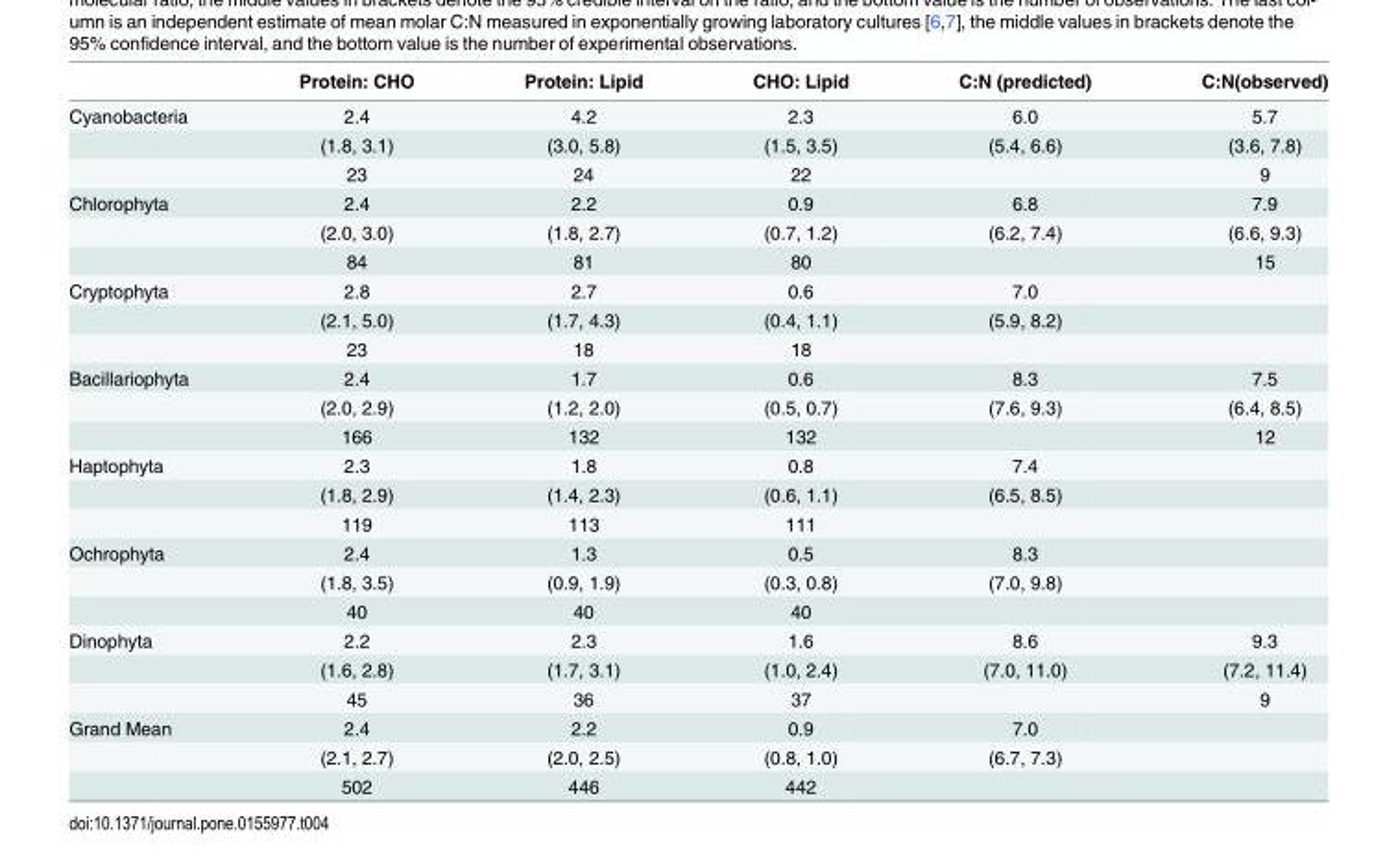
<table><thead><tr><td></td><td>Protein: CHO</td><td>Protein: Lipid</td><td>CHO: Lipid</td><td>C:N (predicted)</td><td>C:N(observed)</td></tr></thead><tbody><tr><td rowspan="3">Cyanobacteria</td><td>2.4</td><td>4.2</td><td>2.3</td><td>6.0</td><td>5.7</td></tr><tr><td>(1.8, 3.1)</td><td>(3.0, 5.8)</td><td>(1.5, 3.5)</td><td>(5.4, 6.6)</td><td>(3.6, 7.8)</td></tr><tr><td>23</td><td>24</td><td>22</td><td></td><td>9</td></tr><tr><td rowspan="3">Chlorophyta</td><td>2.4</td><td>2.2</td><td>0.9</td><td>6.8</td><td>7.9</td></tr><tr><td>(2.0, 3.0)</td><td>(1.8, 2.7)</td><td>(0.7, 1.2)</td><td>(6.2, 7.4)</td><td>(6.6, 9.3)</td></tr><tr><td>84</td><td>81</td><td>80</td><td></td><td>15</td></tr><tr><td rowspan="3">Cryptophyta</td><td>2.8</td><td>2.7</td><td>0.6</td><td>7.0</td><td></td></tr><tr><td>(2.1, 5.0)</td><td>(1.7, 4.3)</td><td>(0.4, 1.1)</td><td>(5.9, 8.2)</td><td></td></tr><tr><td>23</td><td>18</td><td>18</td><td></td><td></td></tr><tr><td rowspan="3">Bacillariophyta</td><td>2.4</td><td>1.7</td><td>0.6</td><td>8.3</td><td>7.5</td></tr><tr><td>(2.0, 2.9)</td><td>(1.2, 2.0)</td><td>(0.5, 0.7)</td><td>(7.6, 9.3)</td><td>(6.4, 8.5)</td></tr><tr><td>166</td><td>132</td><td>132</td><td></td><td>12</td></tr><tr><td rowspan="3">Haptophyta</td><td>2.3</td><td>1.8</td><td>0.8</td><td>7.4</td><td></td></tr><tr><td>(1.8, 2.9)</td><td>(1.4, 2.3)</td><td>(0.6, 1.1)</td><td>(6.5, 8.5)</td><td></td></tr><tr><td>119</td><td>113</td><td>111</td><td></td><td></td></tr><tr><td rowspan="3">Ochrophyta</td><td>2.4</td><td>1.3</td><td>0.5</td><td>8.3</td><td></td></tr><tr><td>(1.8, 3.5)</td><td>(0.9, 1.9)</td><td>(0.3, 0.8)</td><td>(7.0, 9.8)</td><td></td></tr><tr><td>40</td><td>40</td><td>40</td><td></td><td></td></tr><tr><td rowspan="3">Dinophyta</td><td>2.2</td><td>2.3</td><td>1.6</td><td>8.6</td><td>9.3</td></tr><tr><td>(1.6, 2.8)</td><td>(1.7, 3.1)</td><td>(1.0, 2.4)</td><td>(7.0, 11.0)</td><td>(7.2, 11.4)</td></tr><tr><td>45</td><td>36</td><td>37</td><td></td><td>9</td></tr><tr><td rowspan="3">Grand Mean</td><td>2.4</td><td>2.2</td><td>0.9</td><td>7.0</td><td></td></tr><tr><td>(2.1, 2.7)</td><td>(2.0, 2.5)</td><td>(0.8, 1.0)</td><td>(6.7, 7.3)</td><td></td></tr><tr><td>502</td><td>446</td><td>442</td><td></td><td></td></tr></tbody></table>